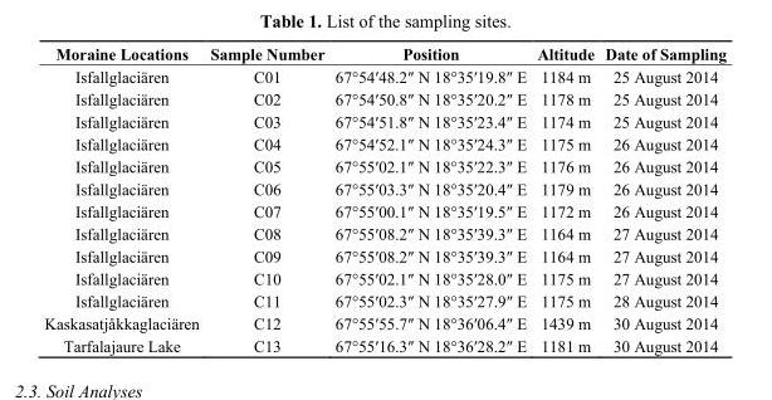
<table><thead><tr><td>Moraine Locations</td><td>Sample Number</td><td>Position</td><td>Altitude</td><td>Date of Sampling</td></tr></thead><tbody><tr><td>Isfallglaciären</td><td>C01</td><td>67°54′48.2″ N 18°35′19.8″ E</td><td>1184 m</td><td>25 August 2014</td></tr><tr><td>Isfallglaciären</td><td>C02</td><td>67°54′50.8″ N 18°35′20.2″ E</td><td>1178 m</td><td>25 August 2014</td></tr><tr><td>Isfallglaciären</td><td>C03</td><td>67°54′51.8″ N 18°35′23.4″ E</td><td>1174 m</td><td>25 August 2014</td></tr><tr><td>Isfallglaciären</td><td>C04</td><td>67°54′52.1″ N 18°35′24.3″ E</td><td>1175 m</td><td>26 August 2014</td></tr><tr><td>Isfallglaciären</td><td>C05</td><td>67°55′02.1″ N 18°35′22.3″ E</td><td>1176 m</td><td>26 August 2014</td></tr><tr><td>Isfallglaciären</td><td>C06</td><td>67°55′03.3″ N 18°35′20.4″ E</td><td>1179 m</td><td>26 August 2014</td></tr><tr><td>Isfallglaciären</td><td>C07</td><td>67°55′00.1″ N 18°35′19.5″ E</td><td>1172 m</td><td>26 August 2014</td></tr><tr><td>Isfallglaciären</td><td>C08</td><td>67°55′08.2″ N 18°35′39.3″ E</td><td>1164 m</td><td>27 August 2014</td></tr><tr><td>Isfallglaciären</td><td>C09</td><td>67°55′08.2″ N 18°35′39.3″ E</td><td>1164 m</td><td>27 August 2014</td></tr><tr><td>Isfallglaciären</td><td>C10</td><td>67°55′02.1″ N 18°35′28.0″ E</td><td>1175 m</td><td>27 August 2014</td></tr><tr><td>Isfallglaciären</td><td>C11</td><td>67°55′02.3″ N 18°35′27.9″ E</td><td>1175 m</td><td>28 August 2014</td></tr><tr><td>Kaskasatjåkkaglaciären</td><td>C12</td><td>67°55′55.7″ N 18°36′06.4″ E</td><td>1439 m</td><td>30 August 2014</td></tr><tr><td>Tarfalajaure Lake</td><td>C13</td><td>67°55′16.3″ N 18°36′28.2″ E</td><td>1181 m</td><td>30 August 2014</td></tr></tbody></table>